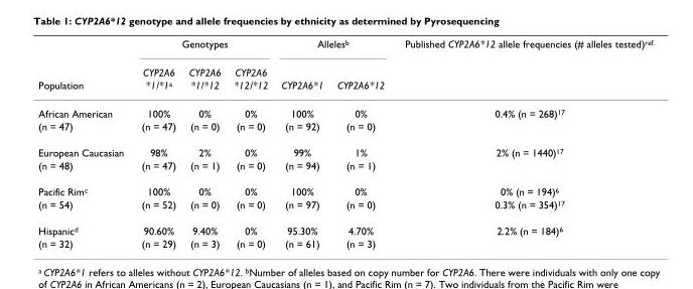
<table><thead><tr><td rowspan="3">Population</td><td colspan="3">Genotypes</td><td colspan="2">Alleles<sup>b</sup></td><td rowspan="3">Published CYP2A6*12 allele frequencies (# alleles tested)<sup>ref.</sup></td></tr><tr><td rowspan="2">CYP2A6 *1/*1<sup>a</sup></td><td rowspan="2">CYP2A6 *1/*12</td><td rowspan="2">CYP2A6 *12/*12</td><td rowspan="2">CYP2A6*1</td><td rowspan="2">CYP2A6*12</td></tr><tr></tr></thead><tbody><tr><td>African American</td><td>100%</td><td>0%</td><td>0%</td><td>100%</td><td>0%</td><td>0.4% (n = 268)<sup>17</sup></td></tr><tr><td>(n = 47)</td><td>(n = 47)</td><td>(n = 0)</td><td>(n = 0)</td><td>(n = 92)</td><td>(n = 0)</td><td></td></tr><tr><td>European Caucasian</td><td>98%</td><td>2%</td><td>0%</td><td>99%</td><td>1%</td><td>2% (n = 1440)<sup>17</sup></td></tr><tr><td>(n = 48)</td><td>(n = 47)</td><td>(n = 1)</td><td>(n = 0)</td><td>(n = 94)</td><td>(n = 1)</td><td></td></tr><tr><td>Pacific Rim<sup>c</sup></td><td>100%</td><td>0%</td><td>0%</td><td>100%</td><td>0%</td><td>0% (n = 194)<sup>6</sup></td></tr><tr><td>(n = 54)</td><td>(n = 52)</td><td>(n = 0)</td><td>(n = 0)</td><td>(n = 97)</td><td>(n = 0)</td><td>0.3% (n = 354)<sup>17</sup></td></tr><tr><td>Hispanic<sup>d</sup></td><td>90.60%</td><td>9.40%</td><td>0%</td><td>95.30%</td><td>4.70%</td><td>2.2% (n = 184)<sup>6</sup></td></tr><tr><td>(n = 32)</td><td>(n = 29)</td><td>(n = 3)</td><td>(n = 0)</td><td>(n = 61)</td><td>(n = 3)</td><td></td></tr></tbody></table>